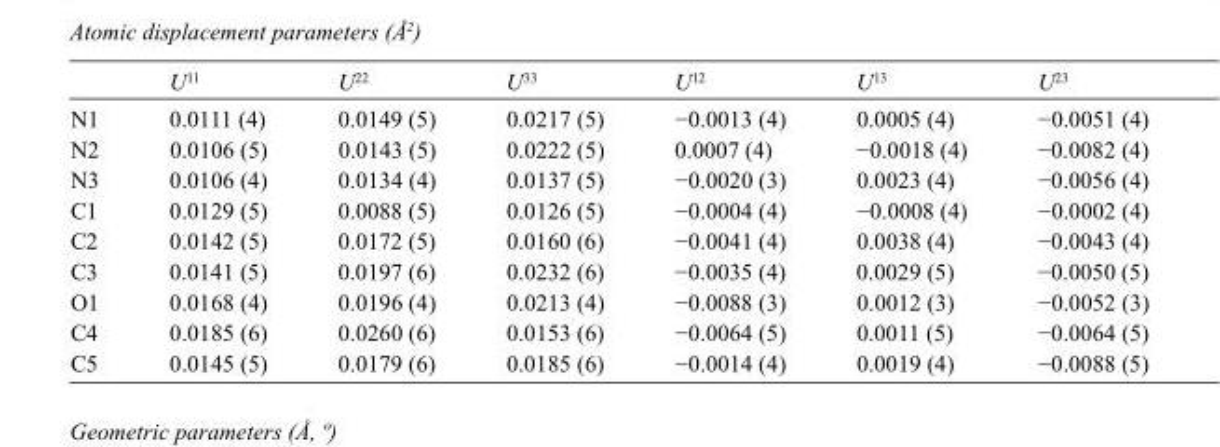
<table><thead><tr><td></td><td>U<sup>11</sup></td><td>U<sup>22</sup></td><td>U<sup>33</sup></td><td>U<sup>12</sup></td><td>U<sup>13</sup></td><td>U<sup>23</sup></td></tr></thead><tbody><tr><td>N1</td><td>0.0111 (4)</td><td>0.0149 (5)</td><td>0.0217 (5)</td><td>−0.0013 (4)</td><td>0.0005 (4)</td><td>−0.0051 (4)</td></tr><tr><td>N2</td><td>0.0106 (5)</td><td>0.0143 (5)</td><td>0.0222 (5)</td><td>0.0007 (4)</td><td>−0.0018 (4)</td><td>−0.0082 (4)</td></tr><tr><td>N3</td><td>0.0106 (4)</td><td>0.0134 (4)</td><td>0.0137 (5)</td><td>−0.0020 (3)</td><td>0.0023 (4)</td><td>−0.0056 (4)</td></tr><tr><td>C1</td><td>0.0129 (5)</td><td>0.0088 (5)</td><td>0.0126 (5)</td><td>−0.0004 (4)</td><td>−0.0008 (4)</td><td>−0.0002 (4)</td></tr><tr><td>C2</td><td>0.0142 (5)</td><td>0.0172 (5)</td><td>0.0160 (6)</td><td>−0.0041 (4)</td><td>0.0038 (4)</td><td>−0.0043 (4)</td></tr><tr><td>C3</td><td>0.0141 (5)</td><td>0.0197 (6)</td><td>0.0232 (6)</td><td>−0.0035 (4)</td><td>0.0029 (5)</td><td>−0.0050 (5)</td></tr><tr><td>O1</td><td>0.0168 (4)</td><td>0.0196 (4)</td><td>0.0213 (4)</td><td>−0.0088 (3)</td><td>0.0012 (3)</td><td>−0.0052 (3)</td></tr><tr><td>C4</td><td>0.0185 (6)</td><td>0.0260 (6)</td><td>0.0153 (6)</td><td>−0.0064 (5)</td><td>0.0011 (5)</td><td>−0.0064 (5)</td></tr><tr><td>C5</td><td>0.0145 (5)</td><td>0.0179 (6)</td><td>0.0185 (6)</td><td>−0.0014 (4)</td><td>0.0019 (4)</td><td>−0.0088 (5)</td></tr></tbody></table>